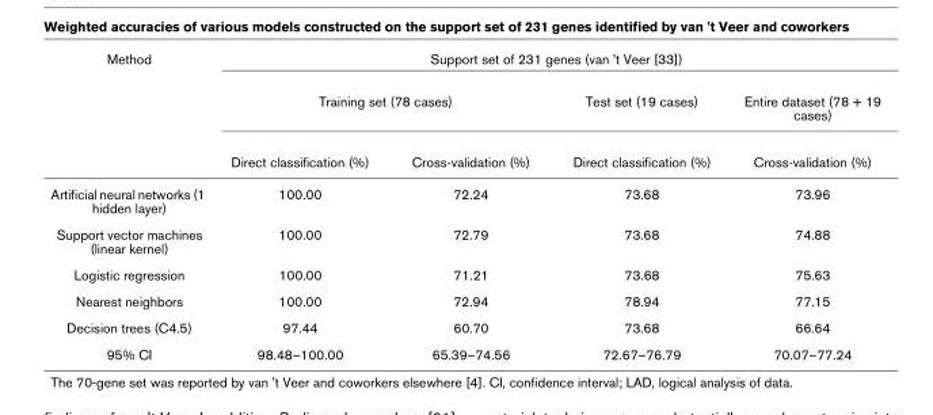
<table><thead><tr><td rowspan="3">Method</td><td colspan="4">Support set of 231 genes (van &#x27;t Veer [33])</td></tr><tr><td colspan="2">Training set (78 cases)</td><td rowspan="2">Test set (19 cases) Direct classification (%)</td><td rowspan="2">Entire dataset (78 + 19 cases) Cross-validation (%)</td></tr><tr><td>Direct classification (%)</td><td>Cross-validation (%)</td></tr></thead><tbody><tr><td>Artificial neural networks (1 hidden layer)</td><td>100.00</td><td>72.24</td><td>73.68</td><td>73.96</td></tr><tr><td>Support vector machines (linear kernel)</td><td>100.00</td><td>72.79</td><td>73.68</td><td>74.88</td></tr><tr><td>Logistic regression</td><td>100.00</td><td>71.21</td><td>73.68</td><td>75.63</td></tr><tr><td>Nearest neighbors</td><td>100.00</td><td>72.94</td><td>78.94</td><td>77.15</td></tr><tr><td>Decision trees (C4.5)</td><td>97.44</td><td>60.70</td><td>73.68</td><td>66.64</td></tr><tr><td>95% CI</td><td>98.48–100.00</td><td>65.39–74.56</td><td>72.67–76.79</td><td>70.07–77.24</td></tr></tbody></table>